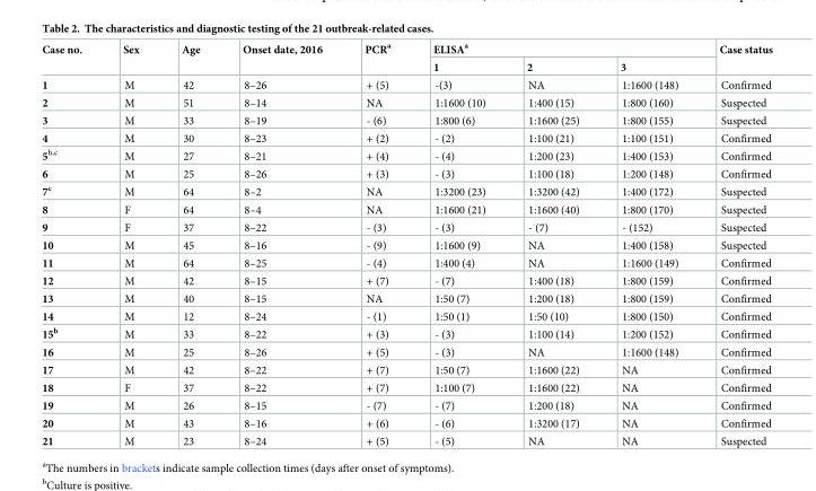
<table><thead><tr><td rowspan="2">Case no.</td><td rowspan="2">Sex</td><td rowspan="2">Age</td><td rowspan="2">Onset date, 2016</td><td rowspan="2">PCR<sup>a</sup></td><td colspan="3">ELISA<sup>a</sup></td><td rowspan="2">Case status</td></tr><tr><td>1</td><td>2</td><td>3</td></tr></thead><tbody><tr><td>1</td><td>M</td><td>42</td><td>8–26</td><td>+ (5)</td><td>-(3)</td><td>NA</td><td>1:1600 (148)</td><td>Confirmed</td></tr><tr><td>2</td><td>M</td><td>51</td><td>8–14</td><td>NA</td><td>1:1600 (10)</td><td>1:400 (15)</td><td>1:800 (160)</td><td>Suspected</td></tr><tr><td>3</td><td>M</td><td>33</td><td>8–19</td><td>- (6)</td><td>1:800 (6)</td><td>1:1600 (25)</td><td>1:800 (155)</td><td>Suspected</td></tr><tr><td>4</td><td>M</td><td>30</td><td>8–23</td><td>+ (2)</td><td>- (2)</td><td>1:100 (21)</td><td>1:100 (151)</td><td>Confirmed</td></tr><tr><td>5<sup>b,c</sup></td><td>M</td><td>27</td><td>8–21</td><td>+ (4)</td><td>- (4)</td><td>1:200 (23)</td><td>1:400 (153)</td><td>Confirmed</td></tr><tr><td>6</td><td>M</td><td>25</td><td>8–26</td><td>+ (3)</td><td>- (3)</td><td>1:100 (18)</td><td>1:200 (148)</td><td>Confirmed</td></tr><tr><td>7<sup>c</sup></td><td>M</td><td>64</td><td>8–2</td><td>NA</td><td>1:3200 (23)</td><td>1:3200 (42)</td><td>1:400 (172)</td><td>Suspected</td></tr><tr><td>8</td><td>F</td><td>64</td><td>8–4</td><td>NA</td><td>1:1600 (21)</td><td>1:1600 (40)</td><td>1:800 (170)</td><td>Suspected</td></tr><tr><td>9</td><td>F</td><td>37</td><td>8–22</td><td>- (3)</td><td>- (3)</td><td>- (7)</td><td>- (152)</td><td>Suspected</td></tr><tr><td>10</td><td>M</td><td>45</td><td>8–16</td><td>- (9)</td><td>1:1600 (9)</td><td>NA</td><td>1:400 (158)</td><td>Suspected</td></tr><tr><td>11</td><td>M</td><td>64</td><td>8–25</td><td>- (4)</td><td>1:400 (4)</td><td>NA</td><td>1:1600 (149)</td><td>Confirmed</td></tr><tr><td>12</td><td>M</td><td>42</td><td>8–15</td><td>+ (7)</td><td>- (7)</td><td>1:400 (18)</td><td>1:800 (159)</td><td>Confirmed</td></tr><tr><td>13</td><td>M</td><td>40</td><td>8–15</td><td>NA</td><td>1:50 (7)</td><td>1:200 (18)</td><td>1:800 (159)</td><td>Confirmed</td></tr><tr><td>14</td><td>M</td><td>12</td><td>8–24</td><td>- (1)</td><td>1:50 (1)</td><td>1:50 (10)</td><td>1:800 (150)</td><td>Confirmed</td></tr><tr><td>15<sup>b</sup></td><td>M</td><td>33</td><td>8–22</td><td>+ (3)</td><td>- (3)</td><td>1:100 (14)</td><td>1:200 (152)</td><td>Confirmed</td></tr><tr><td>16</td><td>M</td><td>25</td><td>8–26</td><td>+ (5)</td><td>- (3)</td><td>NA</td><td>1:1600 (148)</td><td>Confirmed</td></tr><tr><td>17</td><td>M</td><td>42</td><td>8–22</td><td>+ (7)</td><td>1:50 (7)</td><td>1:1600 (22)</td><td>NA</td><td>Confirmed</td></tr><tr><td>18</td><td>F</td><td>37</td><td>8–22</td><td>+ (7)</td><td>1:100 (7)</td><td>1:1600 (22)</td><td>NA</td><td>Confirmed</td></tr><tr><td>19</td><td>M</td><td>26</td><td>8–15</td><td>- (7)</td><td>- (7)</td><td>1:200 (18)</td><td>NA</td><td>Confirmed</td></tr><tr><td>20</td><td>M</td><td>43</td><td>8–16</td><td>+ (6)</td><td>- (6)</td><td>1:3200 (17)</td><td>NA</td><td>Confirmed</td></tr><tr><td>21</td><td>M</td><td>23</td><td>8–24</td><td>+ (5)</td><td>- (5)</td><td>NA</td><td>NA</td><td>Suspected</td></tr></tbody></table>